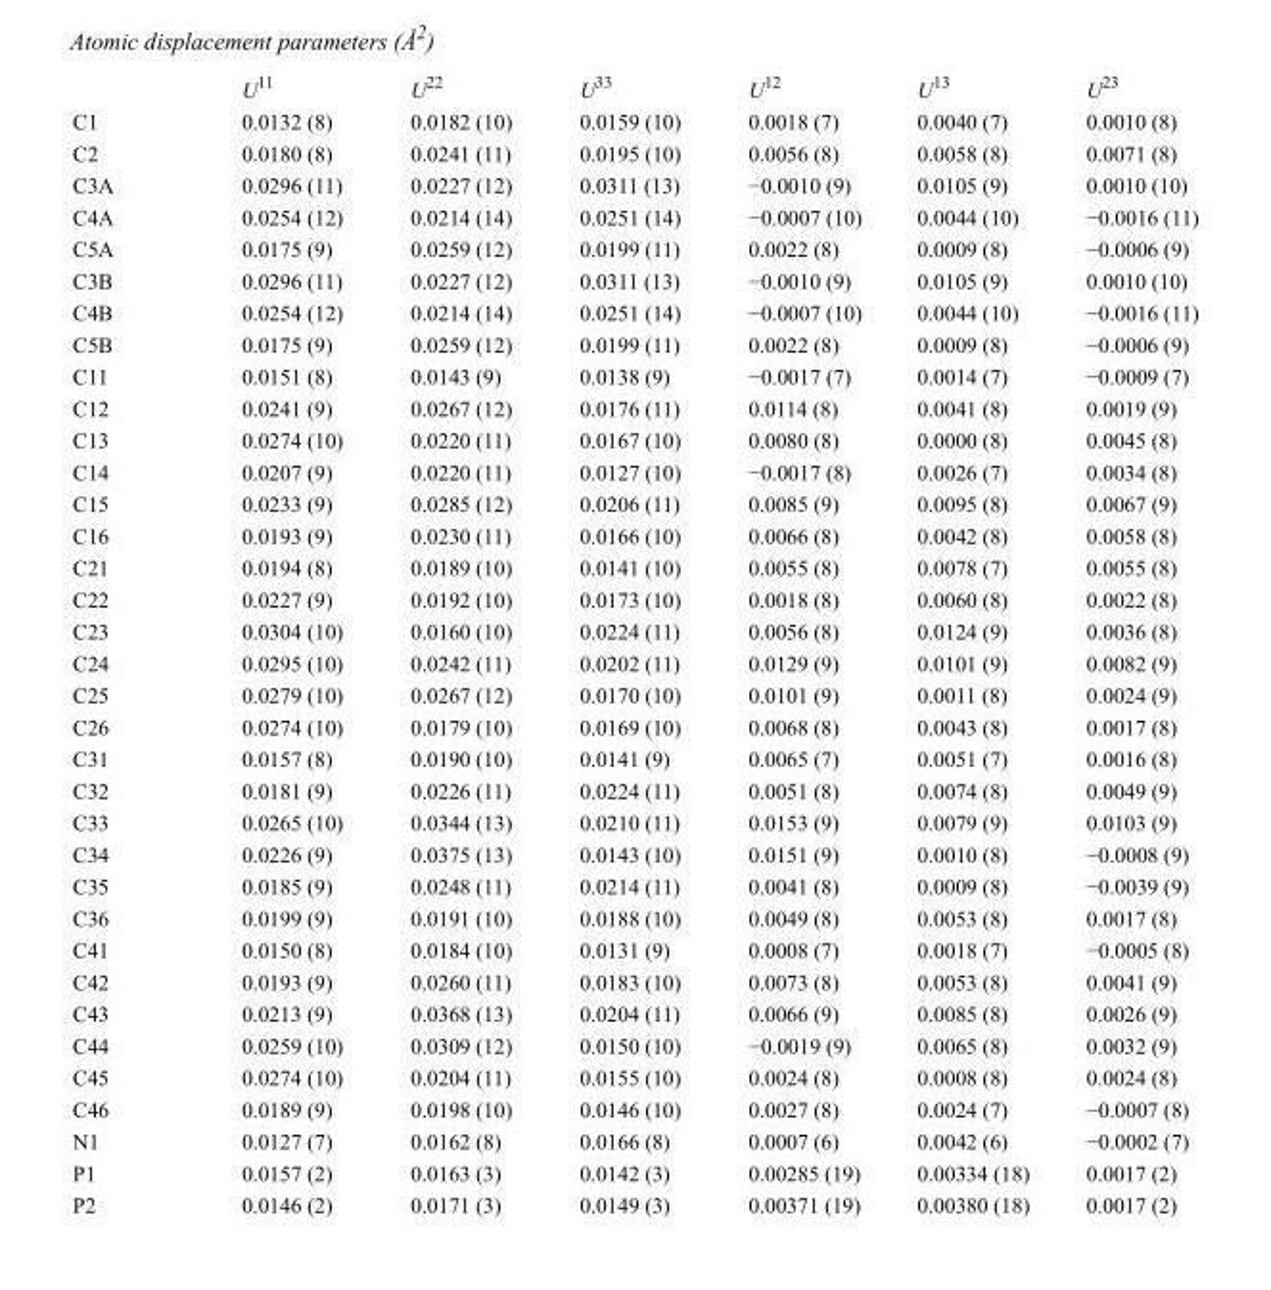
<table><thead><tr><td></td><td>U<sup>11</sup></td><td>U<sup>22</sup></td><td>U<sup>33</sup></td><td>U<sup>12</sup></td><td>U<sup>13</sup></td><td>U<sup>23</sup></td></tr></thead><tbody><tr><td>C1</td><td>0.0132 (8)</td><td>0.0182 (10)</td><td>0.0159 (10)</td><td>0.0018 (7)</td><td>0.0040 (7)</td><td>0.0010 (8)</td></tr><tr><td>C2</td><td>0.0180 (8)</td><td>0.0241 (11)</td><td>0.0195 (10)</td><td>0.0056 (8)</td><td>0.0058 (8)</td><td>0.0071 (8)</td></tr><tr><td>C3A</td><td>0.0296 (11)</td><td>0.0227 (12)</td><td>0.0311 (13)</td><td>−0.0010 (9)</td><td>0.0105 (9)</td><td>0.0010 (10)</td></tr><tr><td>C4A</td><td>0.0254 (12)</td><td>0.0214 (14)</td><td>0.0251 (14)</td><td>−0.0007 (10)</td><td>0.0044 (10)</td><td>−0.0016 (11)</td></tr><tr><td>C5A</td><td>0.0175 (9)</td><td>0.0259 (12)</td><td>0.0199 (11)</td><td>0.0022 (8)</td><td>0.0009 (8)</td><td>−0.0006 (9)</td></tr><tr><td>C3B</td><td>0.0296 (11)</td><td>0.0227 (12)</td><td>0.0311 (13)</td><td>−0.0010 (9)</td><td>0.0105 (9)</td><td>0.0010 (10)</td></tr><tr><td>C4B</td><td>0.0254 (12)</td><td>0.0214 (14)</td><td>0.0251 (14)</td><td>−0.0007 (10)</td><td>0.0044 (10)</td><td>−0.0016 (11)</td></tr><tr><td>C5B</td><td>0.0175 (9)</td><td>0.0259 (12)</td><td>0.0199 (11)</td><td>0.0022 (8)</td><td>0.0009 (8)</td><td>−0.0006 (9)</td></tr><tr><td>C11</td><td>0.0151 (8)</td><td>0.0143 (9)</td><td>0.0138 (9)</td><td>−0.0017 (7)</td><td>0.0014 (7)</td><td>−0.0009 (7)</td></tr><tr><td>C12</td><td>0.0241 (9)</td><td>0.0267 (12)</td><td>0.0176 (11)</td><td>0.0114 (8)</td><td>0.0041 (8)</td><td>0.0019 (9)</td></tr><tr><td>C13</td><td>0.0274 (10)</td><td>0.0220 (11)</td><td>0.0167 (10)</td><td>0.0080 (8)</td><td>0.0000 (8)</td><td>0.0045 (8)</td></tr><tr><td>C14</td><td>0.0207 (9)</td><td>0.0220 (11)</td><td>0.0127 (10)</td><td>−0.0017 (8)</td><td>0.0026 (7)</td><td>0.0034 (8)</td></tr><tr><td>C15</td><td>0.0233 (9)</td><td>0.0285 (12)</td><td>0.0206 (11)</td><td>0.0085 (9)</td><td>0.0095 (8)</td><td>0.0067 (9)</td></tr><tr><td>C16</td><td>0.0193 (9)</td><td>0.0230 (11)</td><td>0.0166 (10)</td><td>0.0066 (8)</td><td>0.0042 (8)</td><td>0.0058 (8)</td></tr><tr><td>C21</td><td>0.0194 (8)</td><td>0.0189 (10)</td><td>0.0141 (10)</td><td>0.0055 (8)</td><td>0.0078 (7)</td><td>0.0055 (8)</td></tr><tr><td>C22</td><td>0.0227 (9)</td><td>0.0192 (10)</td><td>0.0173 (10)</td><td>0.0018 (8)</td><td>0.0060 (8)</td><td>0.0022 (8)</td></tr><tr><td>C23</td><td>0.0304 (10)</td><td>0.0160 (10)</td><td>0.0224 (11)</td><td>0.0056 (8)</td><td>0.0124 (9)</td><td>0.0036 (8)</td></tr><tr><td>C24</td><td>0.0295 (10)</td><td>0.0242 (11)</td><td>0.0202 (11)</td><td>0.0129 (9)</td><td>0.0101 (9)</td><td>0.0082 (9)</td></tr><tr><td>C25</td><td>0.0279 (10)</td><td>0.0267 (12)</td><td>0.0170 (10)</td><td>0.0101 (9)</td><td>0.0011 (8)</td><td>0.0024 (9)</td></tr><tr><td>C26</td><td>0.0274 (10)</td><td>0.0179 (10)</td><td>0.0169 (10)</td><td>0.0068 (8)</td><td>0.0043 (8)</td><td>0.0017 (8)</td></tr><tr><td>C31</td><td>0.0157 (8)</td><td>0.0190 (10)</td><td>0.0141 (9)</td><td>0.0065 (7)</td><td>0.0051 (7)</td><td>0.0016 (8)</td></tr><tr><td>C32</td><td>0.0181 (9)</td><td>0.0226 (11)</td><td>0.0224 (11)</td><td>0.0051 (8)</td><td>0.0074 (8)</td><td>0.0049 (9)</td></tr><tr><td>C33</td><td>0.0265 (10)</td><td>0.0344 (13)</td><td>0.0210 (11)</td><td>0.0153 (9)</td><td>0.0079 (9)</td><td>0.0103 (9)</td></tr><tr><td>C34</td><td>0.0226 (9)</td><td>0.0375 (13)</td><td>0.0143 (10)</td><td>0.0151 (9)</td><td>0.0010 (8)</td><td>−0.0008 (9)</td></tr><tr><td>C35</td><td>0.0185 (9)</td><td>0.0248 (11)</td><td>0.0214 (11)</td><td>0.0041 (8)</td><td>0.0009 (8)</td><td>−0.0039 (9)</td></tr><tr><td>C36</td><td>0.0199 (9)</td><td>0.0191 (10)</td><td>0.0188 (10)</td><td>0.0049 (8)</td><td>0.0053 (8)</td><td>0.0017 (8)</td></tr><tr><td>C41</td><td>0.0150 (8)</td><td>0.0184 (10)</td><td>0.0131 (9)</td><td>0.0008 (7)</td><td>0.0018 (7)</td><td>−0.0005 (8)</td></tr><tr><td>C42</td><td>0.0193 (9)</td><td>0.0260 (11)</td><td>0.0183 (10)</td><td>0.0073 (8)</td><td>0.0053 (8)</td><td>0.0041 (9)</td></tr><tr><td>C43</td><td>0.0213 (9)</td><td>0.0368 (13)</td><td>0.0204 (11)</td><td>0.0066 (9)</td><td>0.0085 (8)</td><td>0.0026 (9)</td></tr><tr><td>C44</td><td>0.0259 (10)</td><td>0.0309 (12)</td><td>0.0150 (10)</td><td>−0.0019 (9)</td><td>0.0065 (8)</td><td>0.0032 (9)</td></tr><tr><td>C45</td><td>0.0274 (10)</td><td>0.0204 (11)</td><td>0.0155 (10)</td><td>0.0024 (8)</td><td>0.0008 (8)</td><td>0.0024 (8)</td></tr><tr><td>C46</td><td>0.0189 (9)</td><td>0.0198 (10)</td><td>0.0146 (10)</td><td>0.0027 (8)</td><td>0.0024 (7)</td><td>−0.0007 (8)</td></tr><tr><td>N1</td><td>0.0127 (7)</td><td>0.0162 (8)</td><td>0.0166 (8)</td><td>0.0007 (6)</td><td>0.0042 (6)</td><td>−0.0002 (7)</td></tr><tr><td>P1</td><td>0.0157 (2)</td><td>0.0163 (3)</td><td>0.0142 (3)</td><td>0.00285 (19)</td><td>0.00334 (18)</td><td>0.0017 (2)</td></tr><tr><td>P2</td><td>0.0146 (2)</td><td>0.0171 (3)</td><td>0.0149 (3)</td><td>0.00371 (19)</td><td>0.00380 (18)</td><td>0.0017 (2)</td></tr></tbody></table>